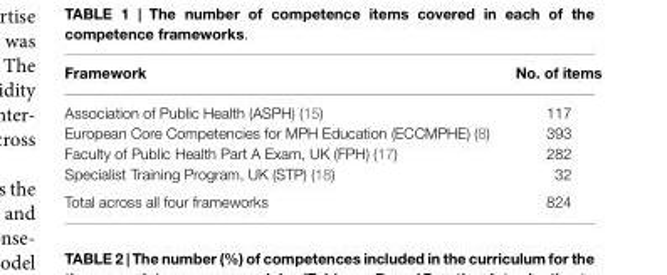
<table><thead><tr><td>Framework</td><td>No. of items</td></tr></thead><tbody><tr><td>Association of Public Health (ASPH) (15)</td><td>117</td></tr><tr><td>European Core Competencies for MPH Education (ECCMPHE) (8)</td><td>393</td></tr><tr><td>Faculty of Public Health Part A Exam, UK (FPH) (17)</td><td>282</td></tr><tr><td>Specialist Training Program, UK (STP) (18)</td><td>32</td></tr><tr><td>Total across all four frameworks</td><td>824</td></tr></tbody></table>